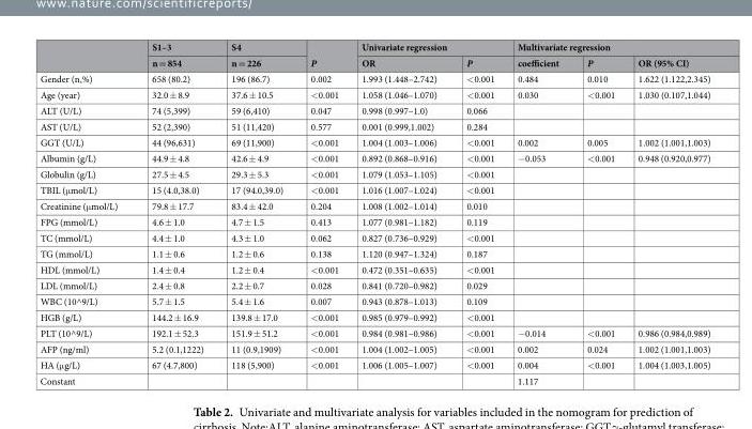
<table><thead><tr><td rowspan="2"></td><td rowspan="2">S1–3 n = 854</td><td rowspan="2">S4 n = 226</td><td rowspan="2">P</td><td colspan="2">Univariate regression</td><td colspan="3">Multivariate regression</td></tr><tr><td>OR</td><td>P</td><td>coefficient</td><td>P</td><td>OR (95% CI)</td></tr></thead><tbody><tr><td>Gender (n,%)</td><td>658 (80.2)</td><td>196 (86.7)</td><td>0.002</td><td>1.993 (1.448–2.742)</td><td>&lt;0.001</td><td>0.484</td><td>0.010</td><td>1.622 (1.122,2.345)</td></tr><tr><td>Age (year)</td><td>32.0 ± 8.9</td><td>37.6 ± 10.5</td><td>&lt;0.001</td><td>1.058 (1.046–1.070)</td><td>&lt;0.001</td><td>0.030</td><td>&lt;0.001</td><td>1.030 (0.107,1.044)</td></tr><tr><td>ALT (U/L)</td><td>74 (5,399)</td><td>59 (6,410)</td><td>0.047</td><td>0.998 (0.997–1.0)</td><td>0.066</td><td></td><td></td><td></td></tr><tr><td>AST (U/L)</td><td>52 (2,390)</td><td>51 (11,420)</td><td>0.577</td><td>0.001 (0.999,1.002)</td><td>0.284</td><td></td><td></td><td></td></tr><tr><td>GGT (U/L)</td><td>44 (96,631)</td><td>69 (11,900)</td><td>&lt;0.001</td><td>1.004 (1.003–1.006)</td><td>&lt;0.001</td><td>0.002</td><td>0.005</td><td>1.002 (1.001,1.003)</td></tr><tr><td>Albumin (g/L)</td><td>44.9 ± 4.8</td><td>42.6 ± 4.9</td><td>&lt;0.001</td><td>0.892 (0.868–0.916)</td><td>&lt;0.001</td><td>−0.053</td><td>&lt;0.001</td><td>0.948 (0.920,0.977)</td></tr><tr><td>Globulin (g/L)</td><td>27.5 ± 4.5</td><td>29.3 ± 5.3</td><td>&lt;0.001</td><td>1.079 (1.053–1.105)</td><td>&lt;0.001</td><td></td><td></td><td></td></tr><tr><td>TBIL (μmol/L)</td><td>15 (4.0,38.0)</td><td>17 (94.0,39.0)</td><td>&lt;0.001</td><td>1.016 (1.007–1.024)</td><td>&lt;0.001</td><td></td><td></td><td></td></tr><tr><td>Creatinine (μmol/L)</td><td>79.8 ± 17.7</td><td>83.4 ± 42.0</td><td>0.204</td><td>1.008 (1.002–1.014)</td><td>0.010</td><td></td><td></td><td></td></tr><tr><td>FPG (mmol/L)</td><td>4.6 ± 1.0</td><td>4.7 ± 1.5</td><td>0.413</td><td>1.077 (0.981–1.182)</td><td>0.119</td><td></td><td></td><td></td></tr><tr><td>TC (mmol/L)</td><td>4.4 ± 1.0</td><td>4.3 ± 1.0</td><td>0.062</td><td>0.827 (0.736–0.929)</td><td>&lt;0.001</td><td></td><td></td><td></td></tr><tr><td>TG (mmol/L)</td><td>1.1 ± 0.6</td><td>1.2 ± 0.6</td><td>0.138</td><td>1.120 (0.947–1.324)</td><td>0.187</td><td></td><td></td><td></td></tr><tr><td>HDL (mmol/L)</td><td>1.4 ± 0.4</td><td>1.2 ± 0.4</td><td>&lt;0.001</td><td>0.472 (0.351–0.635)</td><td>&lt;0.001</td><td></td><td></td><td></td></tr><tr><td>LDL (mmol/L)</td><td>2.4 ± 0.8</td><td>2.2 ± 0.7</td><td>0.028</td><td>0.841 (0.720–0.982)</td><td>0.029</td><td></td><td></td><td></td></tr><tr><td>WBC (10^9/L)</td><td>5.7 ± 1.5</td><td>5.4 ± 1.6</td><td>0.007</td><td>0.943 (0.878–1.013)</td><td>0.109</td><td></td><td></td><td></td></tr><tr><td>HGB (g/L)</td><td>144.2 ± 16.9</td><td>139.8 ± 17.0</td><td>&lt;0.001</td><td>0.985 (0.979–0.992)</td><td>&lt;0.001</td><td></td><td></td><td></td></tr><tr><td>PLT (10^9/L)</td><td>192.1 ± 52.3</td><td>151.9 ± 51.2</td><td>&lt;0.001</td><td>0.984 (0.981–0.986)</td><td>&lt;0.001</td><td>−0.014</td><td>&lt;0.001</td><td>0.986 (0.984,0.989)</td></tr><tr><td>AFP (ng/ml)</td><td>5.2 (0.1,1222)</td><td>11 (0.9,1909)</td><td>&lt;0.001</td><td>1.004 (1.002–1.005)</td><td>&lt;0.001</td><td>0.002</td><td>0.024</td><td>1.002 (1.001,1.003)</td></tr><tr><td>HA (μg/L)</td><td>67 (4.7,800)</td><td>118 (5,900)</td><td>&lt;0.001</td><td>1.006 (1.005–1.007)</td><td>&lt;0.001</td><td>0.004</td><td>&lt;0.001</td><td>1.004 (1.003,1.005)</td></tr><tr><td>Constant</td><td></td><td></td><td></td><td></td><td></td><td>1.117</td><td></td><td></td></tr></tbody></table>